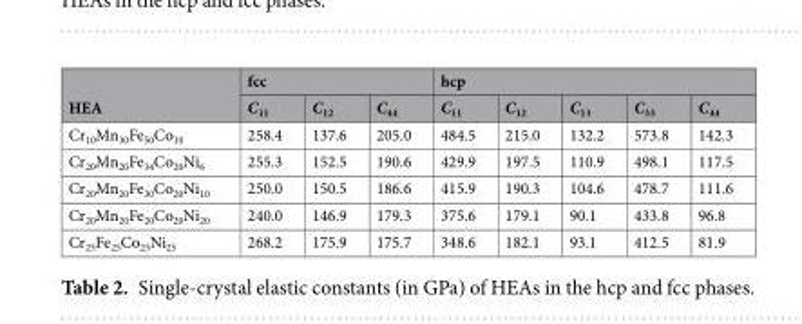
<table><thead><tr><td rowspan="2">HEA</td><td colspan="3">fcc</td><td colspan="5">hcp</td></tr><tr><td>C<sub>11</sub></td><td>C<sub>12</sub></td><td>C<sub>44</sub></td><td>C<sub>11</sub></td><td>C<sub>12</sub></td><td>C<sub>13</sub></td><td>C<sub>33</sub></td><td>C<sub>44</sub></td></tr></thead><tbody><tr><td>Cr<sub>10</sub>Mn<sub>30</sub>Fe<sub>50</sub>Co<sub>10</sub></td><td>258.4</td><td>137.6</td><td>205.0</td><td>484.5</td><td>215.0</td><td>132.2</td><td>573.8</td><td>142.3</td></tr><tr><td>Cr<sub>20</sub>Mn<sub>20</sub>Fe<sub>34</sub>Co<sub>20</sub>Ni<sub>6</sub></td><td>255.3</td><td>152.5</td><td>190.6</td><td>429.9</td><td>197.5</td><td>110.9</td><td>498.1</td><td>117.5</td></tr><tr><td>Cr<sub>20</sub>Mn<sub>20</sub>Fe<sub>30</sub>Co<sub>20</sub>Ni<sub>10</sub></td><td>250.0</td><td>150.5</td><td>186.6</td><td>415.9</td><td>190.3</td><td>104.6</td><td>478.7</td><td>111.6</td></tr><tr><td>Cr<sub>20</sub>Mn<sub>20</sub>Fe<sub>20</sub>Co<sub>20</sub>Ni<sub>20</sub></td><td>240.0</td><td>146.9</td><td>179.3</td><td>375.6</td><td>179.1</td><td>90.1</td><td>433.8</td><td>96.8</td></tr><tr><td>Cr<sub>25</sub>Fe<sub>25</sub>Co<sub>25</sub>Ni<sub>25</sub></td><td>268.2</td><td>175.9</td><td>175.7</td><td>348.6</td><td>182.1</td><td>93.1</td><td>412.5</td><td>81.9</td></tr></tbody></table>